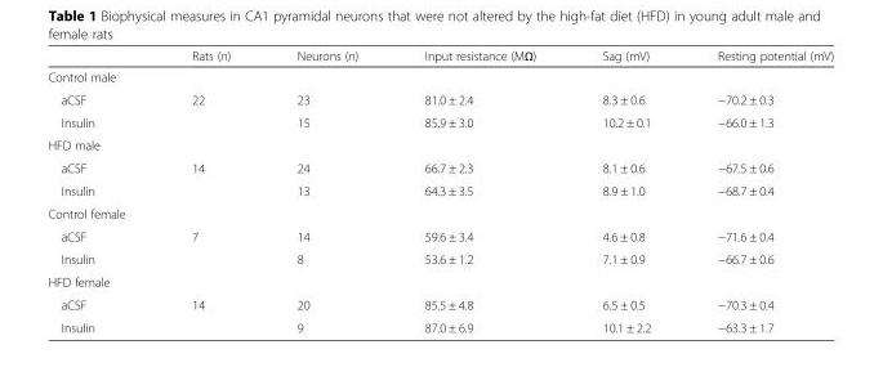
<table><thead><tr><td></td><td>Rats (n)</td><td>Neurons (n)</td><td>Input resistance (MΩ)</td><td>Sag (mV)</td><td>Resting potential (mV)</td></tr></thead><tbody><tr><td colspan="6">Control male</td></tr><tr><td>aCSF</td><td>22</td><td>23</td><td>81.0 ± 2.4</td><td>8.3 ± 0.6</td><td>−70.2 ± 0.3</td></tr><tr><td>Insulin</td><td></td><td>15</td><td>85.9 ± 3.0</td><td>10.2 ± 0.1</td><td>−66.0 ± 1.3</td></tr><tr><td colspan="6">HFD male</td></tr><tr><td>aCSF</td><td>14</td><td>24</td><td>66.7 ± 2.3</td><td>8.1 ± 0.6</td><td>−67.5 ± 0.6</td></tr><tr><td>Insulin</td><td></td><td>13</td><td>64.3 ± 3.5</td><td>8.9 ± 1.0</td><td>−68.7 ± 0.4</td></tr><tr><td colspan="6">Control female</td></tr><tr><td>aCSF</td><td>7</td><td>14</td><td>59.6 ± 3.4</td><td>4.6 ± 0.8</td><td>−71.6 ± 0.4</td></tr><tr><td>Insulin</td><td></td><td>8</td><td>53.6 ± 1.2</td><td>7.1 ± 0.9</td><td>−66.7 ± 0.6</td></tr><tr><td colspan="6">HFD female</td></tr><tr><td>aCSF</td><td>14</td><td>20</td><td>85.5 ± 4.8</td><td>6.5 ± 0.5</td><td>−70.3 ± 0.4</td></tr><tr><td>Insulin</td><td></td><td>9</td><td>87.0 ± 6.9</td><td>10.1 ± 2.2</td><td>−63.3 ± 1.7</td></tr></tbody></table>